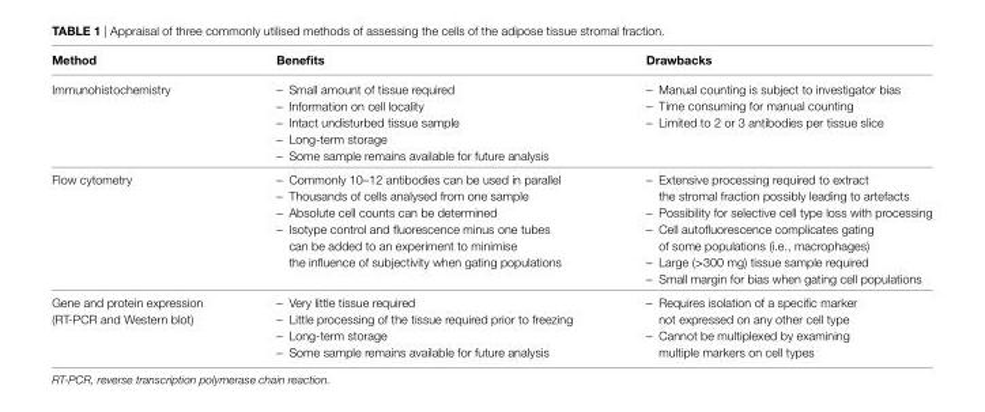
<table><thead><tr><td>Method</td><td>Benefits</td><td>Drawbacks</td></tr></thead><tbody><tr><td>Immunohistochemistry</td><td>– Small amount of tissue required – Information on cell locality – Intact undisturbed tissue sample – Long-term storage – Some sample remains available for future analysis</td><td>– Manual counting is subject to investigator bias – Time consuming for manual counting – Limited to 2 or 3 antibodies per tissue slice</td></tr><tr><td>Flow cytometry</td><td>– Commonly 10–12 antibodies can be used in parallel – Thousands of cells analysed from one sample – Absolute cell counts can be determined – Isotype control and fluorescence minus one tubes can be added to an experiment to minimise the influence of subjectivity when gating populations</td><td>– Extensive processing required to extract the stromal fraction possibly leading to artefacts – Possibility for selective cell type loss with processing – Cell autofluorescence complicates gating of some populations (i.e., macrophages) – Large (&gt;300 mg) tissue sample required – Small margin for bias when gating cell populations</td></tr><tr><td>Gene and protein expression (RT-PCR and Western blot)</td><td>– Very little tissue required – Little processing of the tissue required prior to freezing – Long-term storage – Some sample remains available for future analysis</td><td>– Requires isolation of a specific marker not expressed on any other cell type – Cannot be multiplexed by examining multiple markers on cell types</td></tr></tbody></table>